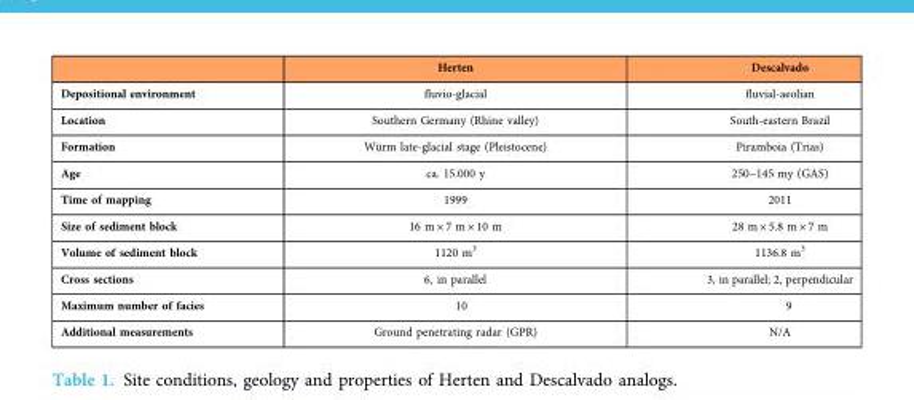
<table><thead><tr><td></td><td>Herten</td><td>Descalvado</td></tr></thead><tbody><tr><td>Depositional environment</td><td>fluvio-glacial</td><td>fluvial-aeolian</td></tr><tr><td>Location</td><td>Southern Germany (Rhine valley)</td><td>South-eastern Brazil</td></tr><tr><td>Formation</td><td>Würm late-glacial stage (Pleistocene)</td><td>Piramboia (Trias)</td></tr><tr><td>Age</td><td>ca. 15.000 y</td><td>250−145 my (GAS)</td></tr><tr><td>Time of mapping</td><td>1999</td><td>2011</td></tr><tr><td>Size of sediment block</td><td>16 m × 7 m × 10 m</td><td>28 m × 5.8 m × 7 m</td></tr><tr><td>Volume of sediment block</td><td>1120 m<sup>3</sup></td><td>1136.8 m<sup>3</sup></td></tr><tr><td>Cross sections</td><td>6, in parallel</td><td>3, in parallel; 2, perpendicular</td></tr><tr><td>Maximum number of facies</td><td>10</td><td>9</td></tr><tr><td>Additional measurements</td><td>Ground penetrating radar (GPR)</td><td>N/A</td></tr></tbody></table>